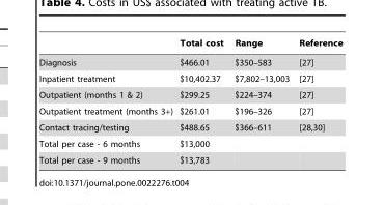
<table><thead><tr><td></td><td>Total cost</td><td>Range</td><td>Reference</td></tr></thead><tbody><tr><td>Diagnosis</td><td>$466.01</td><td>$350–583</td><td>[27]</td></tr><tr><td>Inpatient treatment</td><td>$10,402.37</td><td>$7,802–13,003</td><td>[27]</td></tr><tr><td>Outpatient (months 1 &amp; 2)</td><td>$299.25</td><td>$224–374</td><td>[27]</td></tr><tr><td>Outpatient treatment (months 3+)</td><td>$261.01</td><td>$196–326</td><td>[27]</td></tr><tr><td>Contact tracing/testing</td><td>$488.65</td><td>$366–611</td><td>[28,30]</td></tr><tr><td>Total per case - 6 months</td><td>$13,000</td><td></td><td></td></tr><tr><td>Total per case - 9 months</td><td>$13,783</td><td></td><td></td></tr></tbody></table>